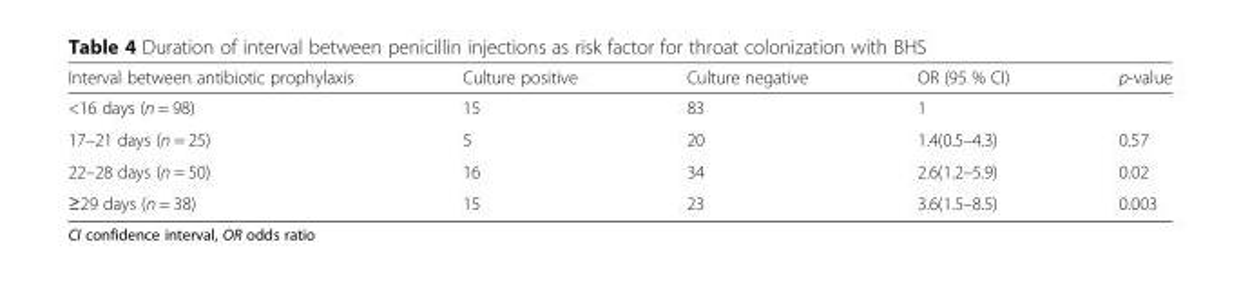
<table><thead><tr><td>Interval between antibiotic prophylaxis</td><td>Culture positive</td><td>Culture negative</td><td>OR (95 % CI)</td><td>p-value</td></tr></thead><tbody><tr><td>&lt;16 days (n = 98)</td><td>15</td><td>83</td><td>1</td><td></td></tr><tr><td>17–21 days (n = 25)</td><td>5</td><td>20</td><td>1.4(0.5–4.3)</td><td>0.57</td></tr><tr><td>22–28 days (n = 50)</td><td>16</td><td>34</td><td>2.6(1.2–5.9)</td><td>0.02</td></tr><tr><td>≥29 days (n = 38)</td><td>15</td><td>23</td><td>3.6(1.5–8.5)</td><td>0.003</td></tr></tbody></table>